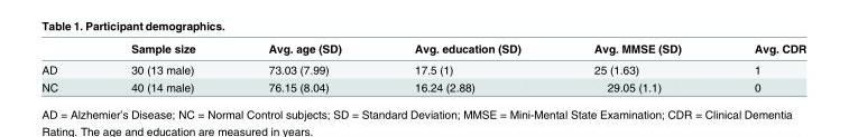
<table><thead><tr><td></td><td>Sample size</td><td>Avg. age (SD)</td><td>Avg. education (SD)</td><td>Avg. MMSE (SD)</td><td>Avg. CDR</td></tr></thead><tbody><tr><td>AD</td><td>30 (13 male)</td><td>73.03 (7.99)</td><td>17.5 (1)</td><td>25 (1.63)</td><td>1</td></tr><tr><td>NC</td><td>40 (14 male)</td><td>76.15 (8.04)</td><td>16.24 (2.88)</td><td>29.05 (1.1)</td><td>0</td></tr></tbody></table>